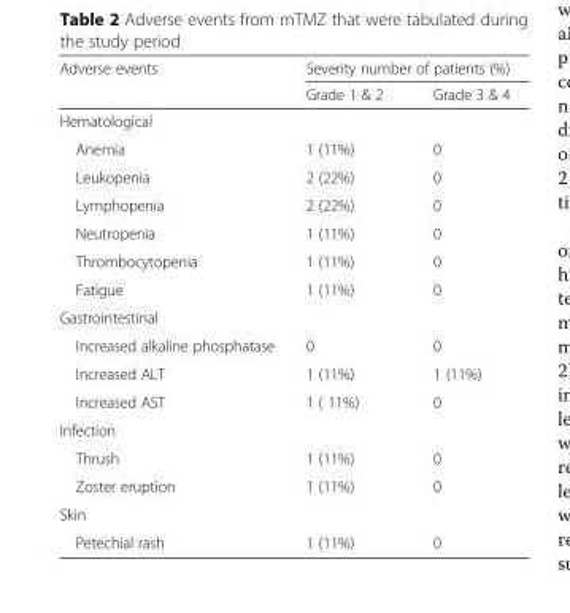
<table><thead><tr><td rowspan="2">Adverse events</td><td colspan="2">Severity number of patients (%)</td></tr><tr><td>Grade 1 &amp; 2</td><td>Grade 3 &amp; 4</td></tr></thead><tbody><tr><td colspan="3">Hematological</td></tr><tr><td>Anemia</td><td>1 (11%)</td><td>0</td></tr><tr><td>Leukopenia</td><td>2 (22%)</td><td>0</td></tr><tr><td>Lymphopenia</td><td>2 (22%)</td><td>0</td></tr><tr><td>Neutropenia</td><td>1 (11%)</td><td>0</td></tr><tr><td>Thrombocytopenia</td><td>1 (11%)</td><td>0</td></tr><tr><td>Fatigue</td><td>1 (11%)</td><td>0</td></tr><tr><td colspan="3">Gastrointestinal</td></tr><tr><td>Increased alkaline phosphatase</td><td>0</td><td>0</td></tr><tr><td>Increased ALT</td><td>1 (11%)</td><td>1 (11%)</td></tr><tr><td>Increased AST</td><td>1 ( 11%)</td><td>0</td></tr><tr><td colspan="3">Infection</td></tr><tr><td>Thrush</td><td>1 (11%)</td><td>0</td></tr><tr><td>Zoster eruption</td><td>1 (11%)</td><td>0</td></tr><tr><td colspan="3">Skin</td></tr><tr><td>Petechial rash</td><td>1 (11%)</td><td>0</td></tr></tbody></table>